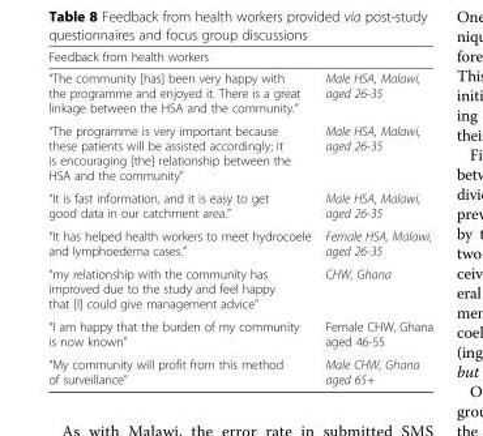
<table><thead><tr><td colspan="2">Feedback from health workers</td></tr><tr><td>“The community [has] been very happy with the programme and enjoyed it. There is a great linkage between the HSA and the community.”</td><td>Male HSA, Malawi, aged 26-35</td></tr></thead><tbody><tr><td>“The programme is very important because these patients will be assisted accordingly; it is encouraging [the] relationship between the HSA and the community”</td><td>Male HSA, Malawi, aged 26-35</td></tr><tr><td>“It is fast information, and it is easy to get good data in our catchment area.”</td><td>Male HSA, Malawi, aged 26-35</td></tr><tr><td>“It has helped health workers to meet hydrocoele and lymphoedema cases.”</td><td>Female HSA, Malawi, aged 26-35</td></tr><tr><td>“my relationship with the community has improved due to the study and feel happy that [I] could give management advice”</td><td>CHW, Ghana</td></tr><tr><td>“I am happy that the burden of my community is now known”</td><td>Female CHW, Ghana aged 46-55</td></tr><tr><td>“My community will profit from this method of surveillance”</td><td>Male CHW, Ghana aged 65+</td></tr></tbody></table>